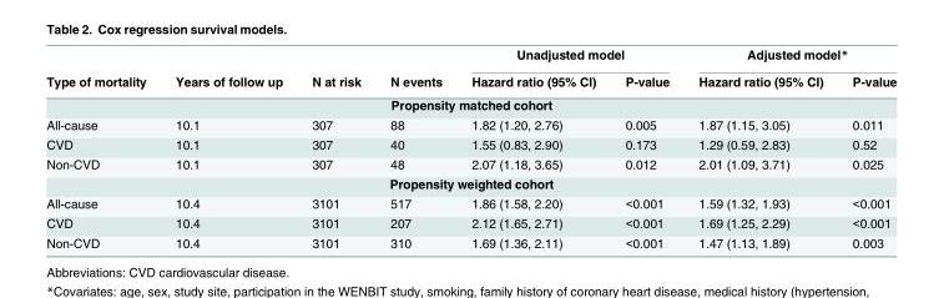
<table><thead><tr><td rowspan="2">Type of mortality</td><td rowspan="2">Years of follow up</td><td rowspan="2">N at risk</td><td rowspan="2">N events</td><td colspan="2">Unadjusted model</td><td colspan="2">Adjusted model*</td></tr><tr><td>Hazard ratio (95% CI)</td><td>P-value</td><td>Hazard ratio (95% CI)</td><td>P-value</td></tr></thead><tbody><tr><td colspan="8">Propensity matched cohort</td></tr><tr><td>All-cause</td><td>10.1</td><td>307</td><td>88</td><td>1.82 (1.20, 2.76)</td><td>0.005</td><td>1.87 (1.15, 3.05)</td><td>0.011</td></tr><tr><td>CVD</td><td>10.1</td><td>307</td><td>40</td><td>1.55 (0.83, 2.90)</td><td>0.173</td><td>1.29 (0.59, 2.83)</td><td>0.52</td></tr><tr><td>Non-CVD</td><td>10.1</td><td>307</td><td>48</td><td>2.07 (1.18, 3.65)</td><td>0.012</td><td>2.01 (1.09, 3.71)</td><td>0.025</td></tr><tr><td colspan="8">Propensity weighted cohort</td></tr><tr><td>All-cause</td><td>10.4</td><td>3101</td><td>517</td><td>1.86 (1.58, 2.20)</td><td>&lt;0.001</td><td>1.59 (1.32, 1.93)</td><td>&lt;0.001</td></tr><tr><td>CVD</td><td>10.4</td><td>3101</td><td>207</td><td>2.12 (1.65, 2.71)</td><td>&lt;0.001</td><td>1.69 (1.25, 2.29)</td><td>&lt;0.001</td></tr><tr><td>Non-CVD</td><td>10.4</td><td>3101</td><td>310</td><td>1.69 (1.36, 2.11)</td><td>&lt;0.001</td><td>1.47 (1.13, 1.89)</td><td>0.003</td></tr></tbody></table>